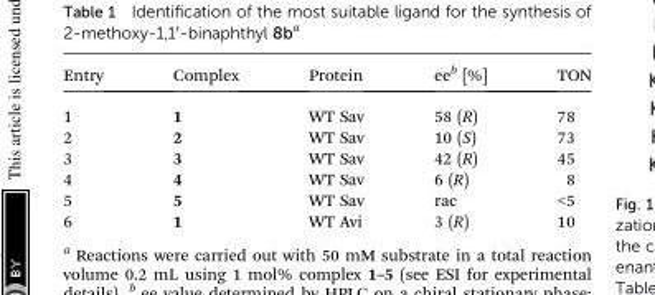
<table><thead><tr><td>Entry</td><td>Complex</td><td>Protein</td><td>ee<sup>b</sup> [%]</td><td>TON</td></tr></thead><tbody><tr><td>1</td><td>1</td><td>WT Sav</td><td>58 (R)</td><td>78</td></tr><tr><td>2</td><td>2</td><td>WT Sav</td><td>10 (S)</td><td>73</td></tr><tr><td>3</td><td>3</td><td>WT Sav</td><td>42 (R)</td><td>45</td></tr><tr><td>4</td><td>4</td><td>WT Sav</td><td>6 (R)</td><td>8</td></tr><tr><td>5</td><td>5</td><td>WT Sav</td><td>rac</td><td>&lt;5</td></tr><tr><td>6</td><td>1</td><td>WT Avi</td><td>3 (R)</td><td>10</td></tr></tbody></table>